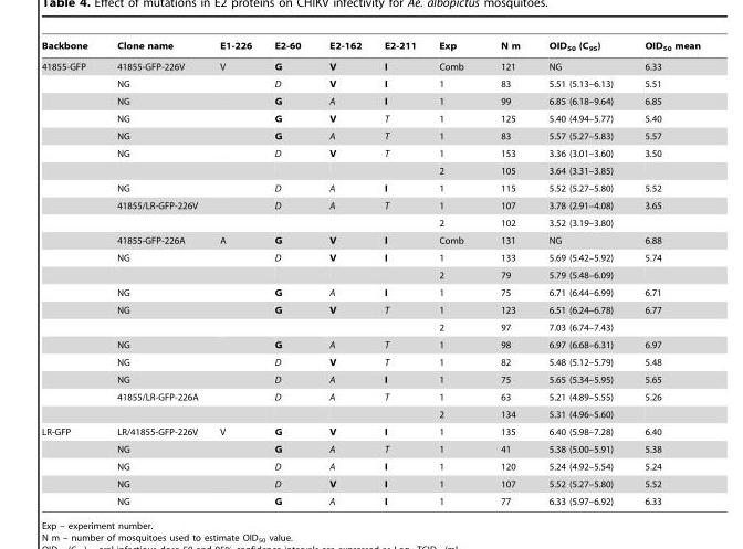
<table><thead><tr><td>Backbone</td><td>Clone name</td><td>E1-226</td><td>E2-60</td><td>E2-162</td><td>E2-211</td><td>Exp</td><td>N m</td><td>OID<sub>50</sub> (C<sub>95</sub>)</td><td>OID<sub>50</sub> mean</td></tr></thead><tbody><tr><td rowspan="21">41855-GFP</td><td>41855-GFP-226V</td><td>V</td><td>G</td><td>V</td><td>I</td><td>Comb</td><td>121</td><td>NG</td><td>6.33</td></tr><tr><td>NG</td><td></td><td>D</td><td>V</td><td>I</td><td>1</td><td>83</td><td>5.51 (5.13–6.13)</td><td>5.51</td></tr><tr><td>NG</td><td></td><td>G</td><td>A</td><td>I</td><td>1</td><td>99</td><td>6.85 (6.18–9.64)</td><td>6.85</td></tr><tr><td>NG</td><td></td><td>G</td><td>V</td><td>T</td><td>1</td><td>125</td><td>5.40 (4.94–5.77)</td><td>5.40</td></tr><tr><td>NG</td><td></td><td>G</td><td>A</td><td>T</td><td>1</td><td>83</td><td>5.57 (5.27–5.83)</td><td>5.57</td></tr><tr><td>NG</td><td></td><td>D</td><td>V</td><td>T</td><td>1</td><td>153</td><td>3.36 (3.01–3.60)</td><td>3.50</td></tr><tr><td></td><td></td><td></td><td></td><td></td><td>2</td><td>105</td><td>3.64 (3.31–3.85)</td><td></td></tr><tr><td>NG</td><td></td><td>D</td><td>A</td><td>I</td><td>1</td><td>115</td><td>5.52 (5.27–5.80)</td><td>5.52</td></tr><tr><td>41855/LR-GFP-226V</td><td></td><td>D</td><td>A</td><td>T</td><td>1</td><td>107</td><td>3.78 (2.91–4.08)</td><td>3.65</td></tr><tr><td></td><td></td><td></td><td></td><td></td><td>2</td><td>102</td><td>3.52 (3.19–3.80)</td><td></td></tr><tr><td>41855-GFP-226A</td><td>A</td><td>G</td><td>V</td><td>I</td><td>Comb</td><td>131</td><td>NG</td><td>6.88</td></tr><tr><td>NG</td><td></td><td>D</td><td>V</td><td>I</td><td>1</td><td>133</td><td>5.69 (5.42–5.92)</td><td>5.74</td></tr><tr><td></td><td></td><td></td><td></td><td></td><td>2</td><td>79</td><td>5.79 (5.48–6.09)</td><td></td></tr><tr><td>NG</td><td></td><td>G</td><td>A</td><td>I</td><td>1</td><td>75</td><td>6.71 (6.44–6.99)</td><td>6.71</td></tr><tr><td>NG</td><td></td><td>G</td><td>V</td><td>T</td><td>1</td><td>123</td><td>6.51 (6.24–6.78)</td><td>6.77</td></tr><tr><td></td><td></td><td></td><td></td><td></td><td>2</td><td>97</td><td>7.03 (6.74–7.43)</td><td></td></tr><tr><td>NG</td><td></td><td>G</td><td>A</td><td>T</td><td>1</td><td>98</td><td>6.97 (6.68–6.31)</td><td>6.97</td></tr><tr><td>NG</td><td></td><td>D</td><td>V</td><td>T</td><td>1</td><td>82</td><td>5.48 (5.12–5.79)</td><td>5.48</td></tr><tr><td>NG</td><td></td><td>D</td><td>A</td><td>I</td><td>1</td><td>75</td><td>5.65 (5.34–5.95)</td><td>5.65</td></tr><tr><td>41855/LR-GFP-226A</td><td></td><td>D</td><td>A</td><td>T</td><td>1</td><td>63</td><td>5.21 (4.89–5.55)</td><td>5.26</td></tr><tr><td></td><td></td><td></td><td></td><td></td><td>2</td><td>134</td><td>5.31 (4.96–5.60)</td><td></td></tr><tr><td rowspan="5">LR-GFP</td><td>LR/41855-GFP-226V</td><td>V</td><td>G</td><td>V</td><td>I</td><td>1</td><td>135</td><td>6.40 (5.98–7.28)</td><td>6.40</td></tr><tr><td>NG</td><td></td><td>G</td><td>A</td><td>T</td><td>1</td><td>41</td><td>5.38 (5.00–5.91)</td><td>5.38</td></tr><tr><td>NG</td><td></td><td>D</td><td>A</td><td>I</td><td>1</td><td>120</td><td>5.24 (4.92–5.54)</td><td>5.24</td></tr><tr><td>NG</td><td></td><td>D</td><td>V</td><td>I</td><td>1</td><td>107</td><td>5.52 (5.27–5.80)</td><td>5.52</td></tr><tr><td>NG</td><td></td><td>G</td><td>A</td><td>I</td><td>1</td><td>77</td><td>6.33 (5.97–6.92)</td><td>6.33</td></tr></tbody></table>